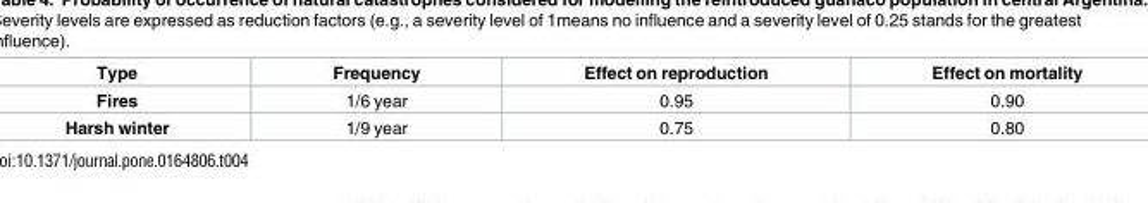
<table><thead><tr><td>Type</td><td>Frequency</td><td>Effect on reproduction</td><td>Effect on mortality</td></tr></thead><tbody><tr><td>Fires</td><td>1/6 year</td><td>0.95</td><td>0.90</td></tr><tr><td>Harsh winter</td><td>1/9 year</td><td>0.75</td><td>0.80</td></tr></tbody></table>